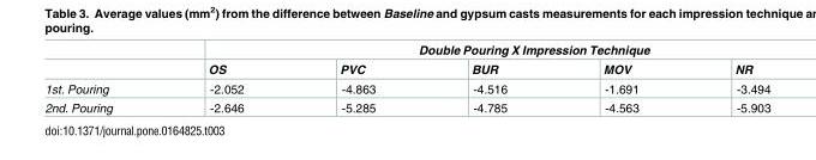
<table><thead><tr><td rowspan="2"></td><td colspan="5">Double Pouring X Impression Technique</td></tr><tr><td>OS</td><td>PVC</td><td>BUR</td><td>MOV</td><td>NR</td></tr></thead><tbody><tr><td>1st. Pouring</td><td>-2.052</td><td>-4.863</td><td>-4.516</td><td>-1.691</td><td>-3.494</td></tr><tr><td>2nd. Pouring</td><td>-2.646</td><td>-5.285</td><td>-4.785</td><td>-4.563</td><td>-5.903</td></tr></tbody></table>